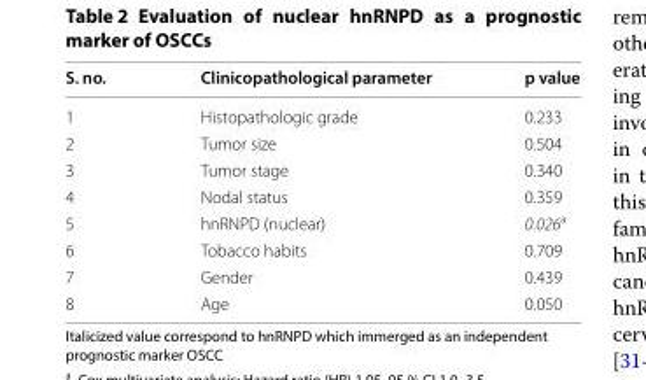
<table><thead><tr><td>S. no.</td><td>Clinicopathological parameter</td><td>p value</td></tr></thead><tbody><tr><td>1</td><td>Histopathologic grade</td><td>0.233</td></tr><tr><td>2</td><td>Tumor size</td><td>0.504</td></tr><tr><td>3</td><td>Tumor stage</td><td>0.340</td></tr><tr><td>4</td><td>Nodal status</td><td>0.359</td></tr><tr><td>5</td><td>hnRNPD (nuclear)</td><td>0.026<sup>a</sup></td></tr><tr><td>6</td><td>Tobacco habits</td><td>0.709</td></tr><tr><td>7</td><td>Gender</td><td>0.439</td></tr><tr><td>8</td><td>Age</td><td>0.050</td></tr></tbody></table>